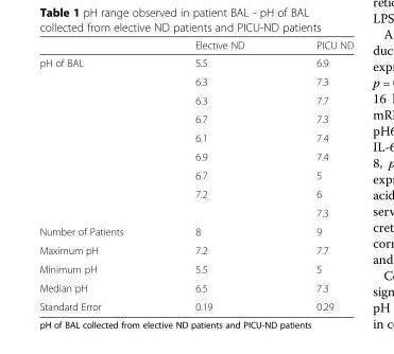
<table><thead><tr><td></td><td>Elective ND</td><td>PICU ND</td></tr></thead><tbody><tr><td rowspan="9">pH of BAL</td><td>5.5</td><td>6.9</td></tr><tr><td>6.3</td><td>7.3</td></tr><tr><td>6.3</td><td>7.7</td></tr><tr><td>6.7</td><td>7.3</td></tr><tr><td>6.1</td><td>7.4</td></tr><tr><td>6.9</td><td>7.4</td></tr><tr><td>6.7</td><td>5</td></tr><tr><td>7.2</td><td>6</td></tr><tr><td></td><td>7.3</td></tr><tr><td>Number of Patients</td><td>8</td><td>9</td></tr><tr><td>Maximum pH</td><td>7.2</td><td>7.7</td></tr><tr><td>Minimum pH</td><td>5.5</td><td>5</td></tr><tr><td>Median pH</td><td>6.5</td><td>7.3</td></tr><tr><td>Standard Error</td><td>0.19</td><td>0.29</td></tr></tbody></table>